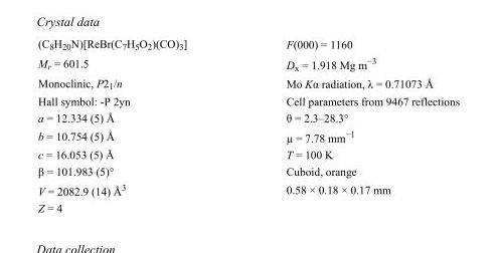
<table><tbody><tr><td>(C<sub>8</sub>H<sub>20</sub>N)[ReBr(C<sub>7</sub>H<sub>5</sub>O<sub>2</sub>)(CO)<sub>3</sub>]</td><td>F(000) = 1160</td></tr><tr><td>M<sub>r</sub> = 601.5</td><td>D<sub>x</sub> = 1.918 Mg m<sup>−3</sup></td></tr><tr><td>Monoclinic, P2<sub>1</sub>/n</td><td>Mo Kα radiation, λ = 0.71073 Å</td></tr><tr><td>Hall symbol: -P 2yn</td><td>Cell parameters from 9467 reflections</td></tr><tr><td>a = 12.334 (5) Å</td><td>θ = 2.3–28.3°</td></tr><tr><td>b = 10.754 (5) Å</td><td>µ = 7.78 mm<sup>−1</sup></td></tr><tr><td>c = 16.053 (5) Å</td><td>T = 100 K</td></tr><tr><td>β = 101.983 (5)°</td><td>Cuboid, orange</td></tr><tr><td>V = 2082.9 (14) Å<sup>3</sup></td><td>0.58 × 0.18 × 0.17 mm</td></tr><tr><td>Z = 4</td><td></td></tr></tbody></table>